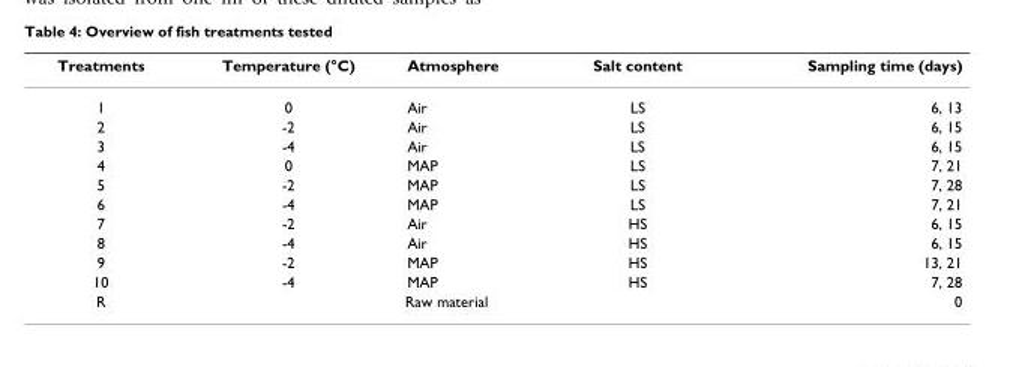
<table><thead><tr><td>Treatments</td><td>Temperature (°C)</td><td>Atmosphere</td><td>Salt content</td><td>Sampling time (days)</td></tr></thead><tbody><tr><td>1</td><td>0</td><td>Air</td><td>LS</td><td>6, 13</td></tr><tr><td>2</td><td>-2</td><td>Air</td><td>LS</td><td>6, 15</td></tr><tr><td>3</td><td>-4</td><td>Air</td><td>LS</td><td>6, 15</td></tr><tr><td>4</td><td>0</td><td>MAP</td><td>LS</td><td>7, 21</td></tr><tr><td>5</td><td>-2</td><td>MAP</td><td>LS</td><td>7, 28</td></tr><tr><td>6</td><td>-4</td><td>MAP</td><td>LS</td><td>7, 21</td></tr><tr><td>7</td><td>-2</td><td>Air</td><td>HS</td><td>6, 15</td></tr><tr><td>8</td><td>-4</td><td>Air</td><td>HS</td><td>6, 15</td></tr><tr><td>9</td><td>-2</td><td>MAP</td><td>HS</td><td>13, 21</td></tr><tr><td>10</td><td>-4</td><td>MAP</td><td>HS</td><td>7, 28</td></tr><tr><td>R</td><td colspan="3">Raw material</td><td>0</td></tr></tbody></table>